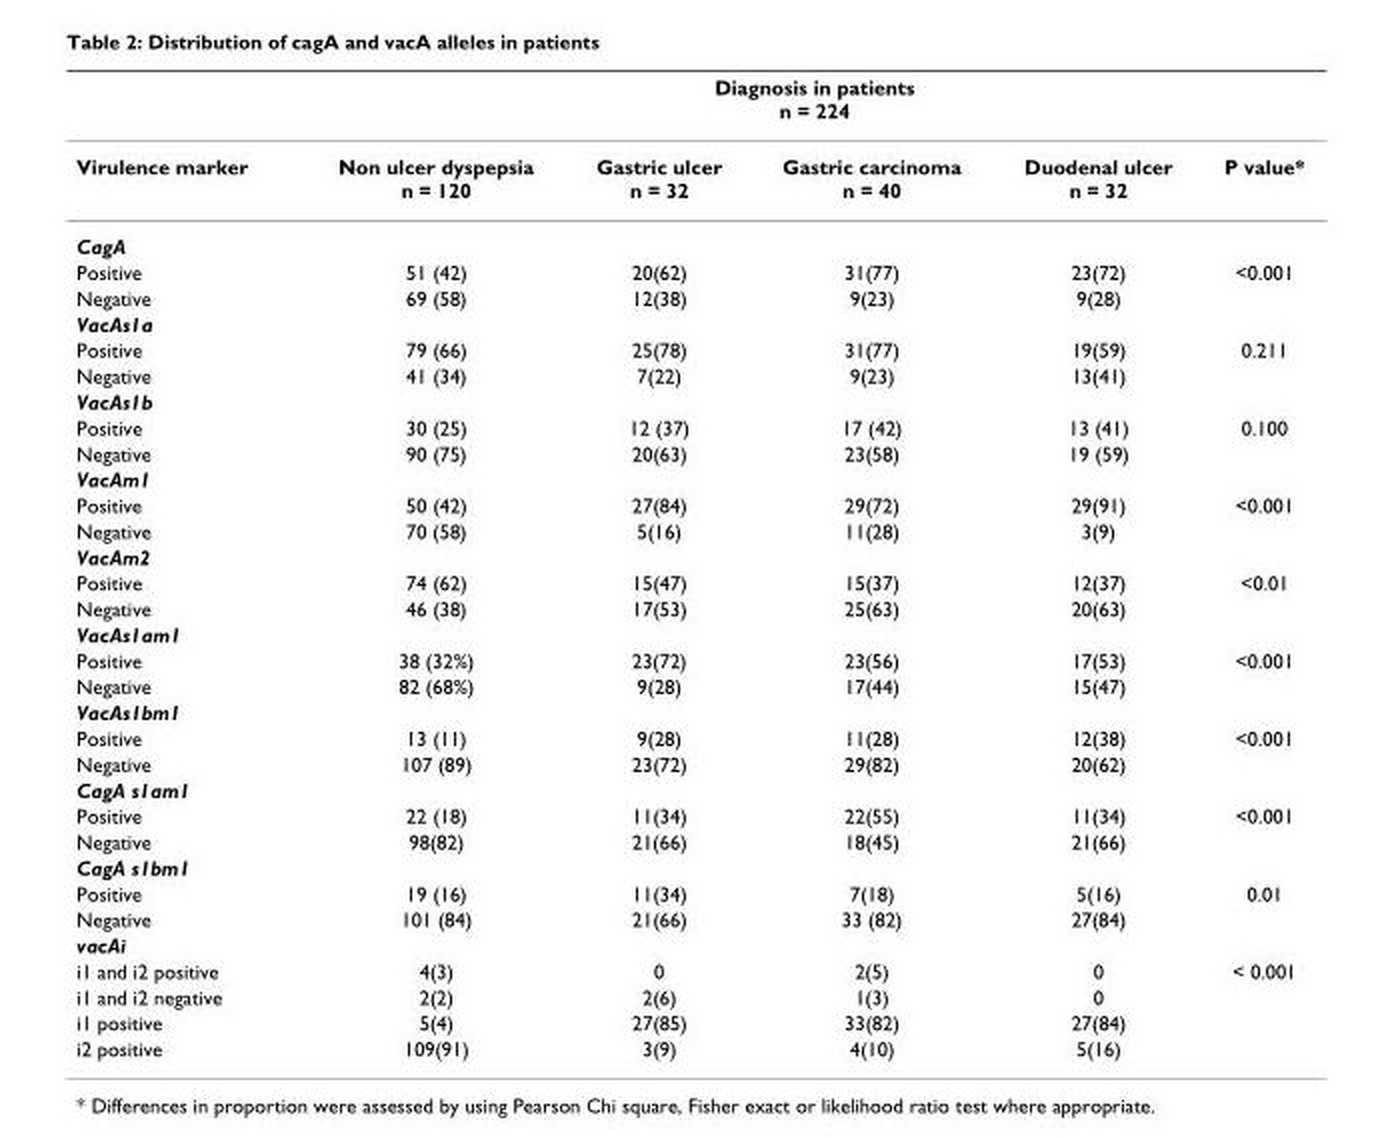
<table><thead><tr><td rowspan="2">Virulence marker</td><td colspan="5">Diagnosis in patients n = 224</td></tr><tr><td>Non ulcer dyspepsia n = 120</td><td>Gastric ulcer n = 32</td><td>Gastric carcinoma n = 40</td><td>Duodenal ulcer n = 32</td><td>P value*</td></tr></thead><tbody><tr><td colspan="6">CagA</td></tr><tr><td>Positive</td><td>51 (42)</td><td>20(62)</td><td>31(77)</td><td>23(72)</td><td>&lt;0.001</td></tr><tr><td>Negative</td><td>69 (58)</td><td>12(38)</td><td>9(23)</td><td>9(28)</td><td></td></tr><tr><td colspan="6">VacAs1a</td></tr><tr><td>Positive</td><td>79 (66)</td><td>25(78)</td><td>31(77)</td><td>19(59)</td><td>0.211</td></tr><tr><td>Negative</td><td>41 (34)</td><td>7(22)</td><td>9(23)</td><td>13(41)</td><td></td></tr><tr><td colspan="6">VacAs1b</td></tr><tr><td>Positive</td><td>30 (25)</td><td>12 (37)</td><td>17 (42)</td><td>13 (41)</td><td>0.100</td></tr><tr><td>Negative</td><td>90 (75)</td><td>20(63)</td><td>23(58)</td><td>19 (59)</td><td></td></tr><tr><td colspan="6">VacAm1</td></tr><tr><td>Positive</td><td>50 (42)</td><td>27(84)</td><td>29(72)</td><td>29(91)</td><td>&lt;0.001</td></tr><tr><td>Negative</td><td>70 (58)</td><td>5(16)</td><td>11(28)</td><td>3(9)</td><td></td></tr><tr><td colspan="6">VacAm2</td></tr><tr><td>Positive</td><td>74 (62)</td><td>15(47)</td><td>15(37)</td><td>12(37)</td><td>&lt;0.01</td></tr><tr><td>Negative</td><td>46 (38)</td><td>17(53)</td><td>25(63)</td><td>20(63)</td><td></td></tr><tr><td colspan="6">VacAs1am1</td></tr><tr><td>Positive</td><td>38 (32%)</td><td>23(72)</td><td>23(56)</td><td>17(53)</td><td>&lt;0.001</td></tr><tr><td>Negative</td><td>82 (68%)</td><td>9(28)</td><td>17(44)</td><td>15(47)</td><td></td></tr><tr><td colspan="6">VacAs1bm1</td></tr><tr><td>Positive</td><td>13 (11)</td><td>9(28)</td><td>11(28)</td><td>12(38)</td><td>&lt;0.001</td></tr><tr><td>Negative</td><td>107 (89)</td><td>23(72)</td><td>29(82)</td><td>20(62)</td><td></td></tr><tr><td colspan="6">CagA s1am1</td></tr><tr><td>Positive</td><td>22 (18)</td><td>11(34)</td><td>22(55)</td><td>11(34)</td><td>&lt;0.001</td></tr><tr><td>Negative</td><td>98(82)</td><td>21(66)</td><td>18(45)</td><td>21(66)</td><td></td></tr><tr><td colspan="6">CagA s1bm1</td></tr><tr><td>Positive</td><td>19 (16)</td><td>11(34)</td><td>7(18)</td><td>5(16)</td><td>0.01</td></tr><tr><td>Negative</td><td>101 (84)</td><td>21(66)</td><td>33 (82)</td><td>27(84)</td><td></td></tr><tr><td colspan="6">vacAi</td></tr><tr><td>i1 and i2 positive</td><td>4(3)</td><td>0</td><td>2(5)</td><td>0</td><td>&lt; 0.001</td></tr><tr><td>i1 and i2 negative</td><td>2(2)</td><td>2(6)</td><td>1(3)</td><td>0</td><td></td></tr><tr><td>i1 positive</td><td>5(4)</td><td>27(85)</td><td>33(82)</td><td>27(84)</td><td></td></tr><tr><td>i2 positive</td><td>109(91)</td><td>3(9)</td><td>4(10)</td><td>5(16)</td><td></td></tr></tbody></table>